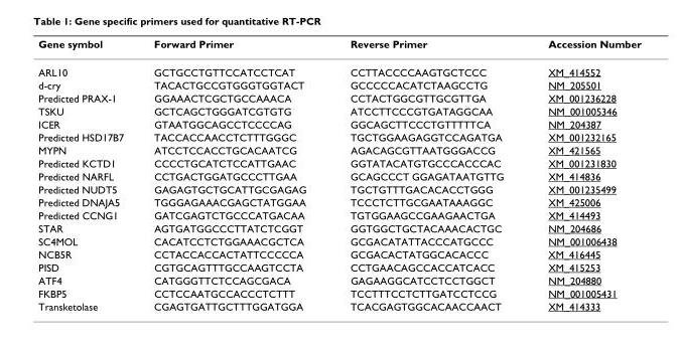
<table><thead><tr><td>Gene symbol</td><td>Forward Primer</td><td>Reverse Primer</td><td>Accession Number</td></tr></thead><tbody><tr><td>ARL10</td><td>GCTGCCTGTTCCATCCTCAT</td><td>CCTTACCCCAAGTGCTCCC</td><td>XM_414552</td></tr><tr><td>d-cry</td><td>TACACTGCCGTGGGTGGTACT</td><td>GCCCCCACATCTAAGCCTG</td><td>NM_205501</td></tr><tr><td>Predicted PRAX-1</td><td>GGAAACTCGCTGCCAAACA</td><td>CCTACTGGCGTTGCGTTGA</td><td>XM_001236228</td></tr><tr><td>TSKU</td><td>GCTCAGCTGGGATCGTGTG</td><td>ATCCTTCCCGTGATAGGCAA</td><td>NM_001005346</td></tr><tr><td>ICER</td><td>GTAATGGCAGCCTCCCCAG</td><td>GGCAGCTTCCCTGTTTTTCA</td><td>NM_204387</td></tr><tr><td>Predicted HSD17B7</td><td>TACCACCAACCTCTTTGGGC</td><td>TGCTGGAAGAGGTCCAGATGA</td><td>XM_001232165</td></tr><tr><td>MYPN</td><td>ATCCTCCACCTGCACAATCG</td><td>AGACAGCGTTAATGGGACCG</td><td>XM_421565</td></tr><tr><td>Predicted KCTD1</td><td>CCCCTGCATCTCCATTGAAC</td><td>GGTATACATGTGCCCACCCAC</td><td>XM_001231830</td></tr><tr><td>Predicted NARFL</td><td>CCTGACTGGATGCCCTTGAA</td><td>GCAGCCCT GGAGATAATGTTG</td><td>XM_414836</td></tr><tr><td>Predicted NUDT5</td><td>GAGAGTGCTGCATTGCGAGAG</td><td>TGCTGTTTGACACACCTGGG</td><td>XM_001235499</td></tr><tr><td>Predicted DNAJA5</td><td>TGGGAGAAACGAGCTATGGAA</td><td>TCCCTCTTGCGAATAAAGGC</td><td>XM_425006</td></tr><tr><td>Predicted CCNG1</td><td>GATCGAGTCTGCCCATGACAA</td><td>TGTGGAAGCCGAAGAACTGA</td><td>XM_414493</td></tr><tr><td>STAR</td><td>AGTGATGGCCCTTATCTCGGT</td><td>GGTGGCTGCTACAAACACTGC</td><td>NM_204686</td></tr><tr><td>SC4MOL</td><td>CACATCCTCTGGAAACGCTCA</td><td>GCGACATATTACCCATGCCC</td><td>NM_001006438</td></tr><tr><td>NCB5R</td><td>CCTACCACCACTATTCCCCCA</td><td>GCGACACTATGGCACACCC</td><td>XM_416445</td></tr><tr><td>PISD</td><td>CGTGCAGTTTGCCAAGTCCTA</td><td>CCTGAACAGCCACCATCACC</td><td>XM_415253</td></tr><tr><td>ATF4</td><td>CATGGGTTCTCCAGCGACA</td><td>GAGAAGGCATCCTCCTGGCT</td><td>NM_204880</td></tr><tr><td>FKBP5</td><td>CCTCCAATGCCACCCTCTTT</td><td>TCCTTTCCTCTTGATCCTCCG</td><td>NM_001005431</td></tr><tr><td>Transketolase</td><td>CGAGTGATTGCTTTGGATGGA</td><td>TCACGAGTGGCACAACCAACT</td><td>XM_414333</td></tr></tbody></table>